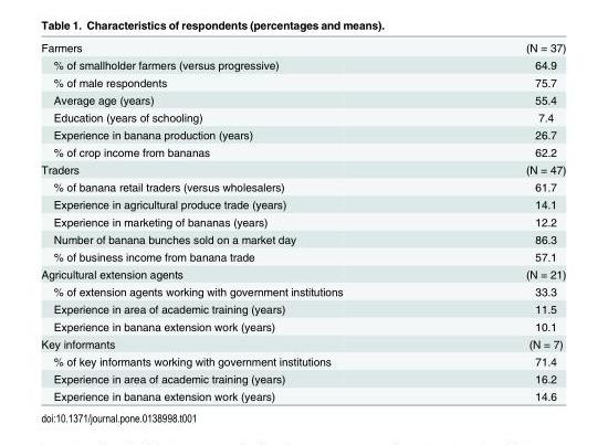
<table><tbody><tr><td>Farmers</td><td>(N = 37)</td></tr><tr><td>% of smallholder farmers (versus progressive)</td><td>64.9</td></tr><tr><td>% of male respondents</td><td>75.7</td></tr><tr><td>Average age (years)</td><td>55.4</td></tr><tr><td>Education (years of schooling)</td><td>7.4</td></tr><tr><td>Experience in banana production (years)</td><td>26.7</td></tr><tr><td>% of crop income from bananas</td><td>62.2</td></tr><tr><td>Traders</td><td>(N = 47)</td></tr><tr><td>% of banana retail traders (versus wholesalers)</td><td>61.7</td></tr><tr><td>Experience in agricultural produce trade (years)</td><td>14.1</td></tr><tr><td>Experience in marketing of bananas (years)</td><td>12.2</td></tr><tr><td>Number of banana bunches sold on a market day</td><td>86.3</td></tr><tr><td>% of business income from banana trade</td><td>57.1</td></tr><tr><td>Agricultural extension agents</td><td>(N = 21)</td></tr><tr><td>% of extension agents working with government institutions</td><td>33.3</td></tr><tr><td>Experience in area of academic training (years)</td><td>11.5</td></tr><tr><td>Experience in banana extension work (years)</td><td>10.1</td></tr><tr><td>Key informants</td><td>(N = 7)</td></tr><tr><td>% of key informants working with government institutions</td><td>71.4</td></tr><tr><td>Experience in area of academic training (years)</td><td>16.2</td></tr><tr><td>Experience in banana extension work (years)</td><td>14.6</td></tr></tbody></table>